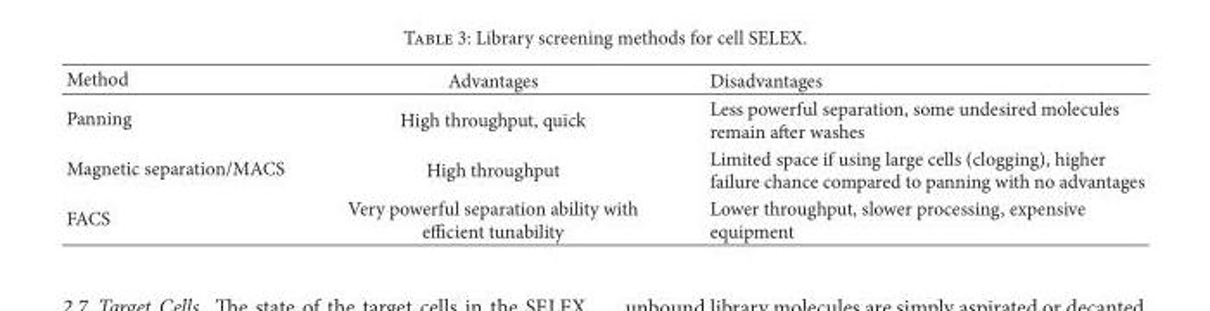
<table><thead><tr><td>Method</td><td>Advantages</td><td>Disadvantages</td></tr></thead><tbody><tr><td>Panning</td><td>High throughput, quick</td><td>Less powerful separation, some undesired molecules remain after washes</td></tr><tr><td>Magnetic separation/MACS</td><td>High throughput</td><td>Limited space if using large cells (clogging), higher failure chance compared to panning with no advantages</td></tr><tr><td>FACS</td><td>Very powerful separation ability with efficient tunability</td><td>Lower throughput, slower processing, expensive equipment</td></tr></tbody></table>